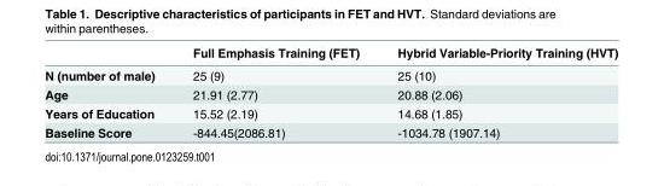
<table><thead><tr><td></td><td>Full Emphasis Training (FET)</td><td>Hybrid Variable-Priority Training (HVT)</td></tr></thead><tbody><tr><td>N (number of male)</td><td>25 (9)</td><td>25 (10)</td></tr><tr><td>Age</td><td>21.91 (2.77)</td><td>20.88 (2.06)</td></tr><tr><td>Years of Education</td><td>15.52 (2.19)</td><td>14.68 (1.85)</td></tr><tr><td>Baseline Score</td><td>-844.45(2086.81)</td><td>-1034.78 (1907.14)</td></tr></tbody></table>